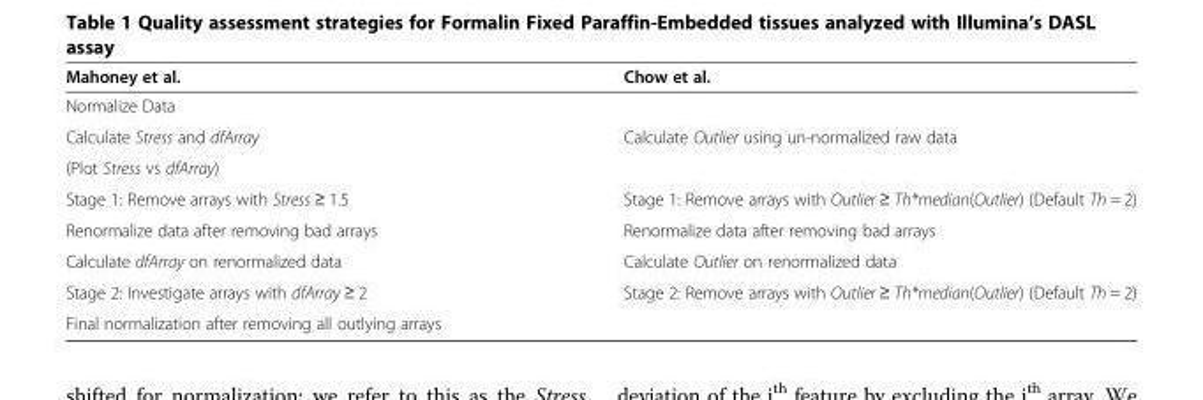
<table><thead><tr><td>Mahoney et al.</td><td>Chow et al.</td></tr></thead><tbody><tr><td colspan="2">Normalize Data</td></tr><tr><td>Calculate Stress and dfArray</td><td rowspan="2">Calculate Outlier using un-normalized raw data</td></tr><tr><td>(Plot Stress vs dfArray)</td></tr><tr><td>Stage 1: Remove arrays with Stress ≥ 1.5</td><td>Stage 1: Remove arrays with Outlier ≥ Th*median(Outlier) (Default Th = 2)</td></tr><tr><td>Renormalize data after removing bad arrays</td><td>Renormalize data after removing bad arrays</td></tr><tr><td>Calculate dfArray on renormalized data</td><td>Calculate Outlier on renormalized data</td></tr><tr><td>Stage 2: Investigate arrays with dfArray ≥ 2</td><td>Stage 2: Remove arrays with Outlier ≥ Th*median(Outlier) (Default Th = 2)</td></tr><tr><td>Final normalization after removing all outlying arrays</td><td></td></tr></tbody></table>